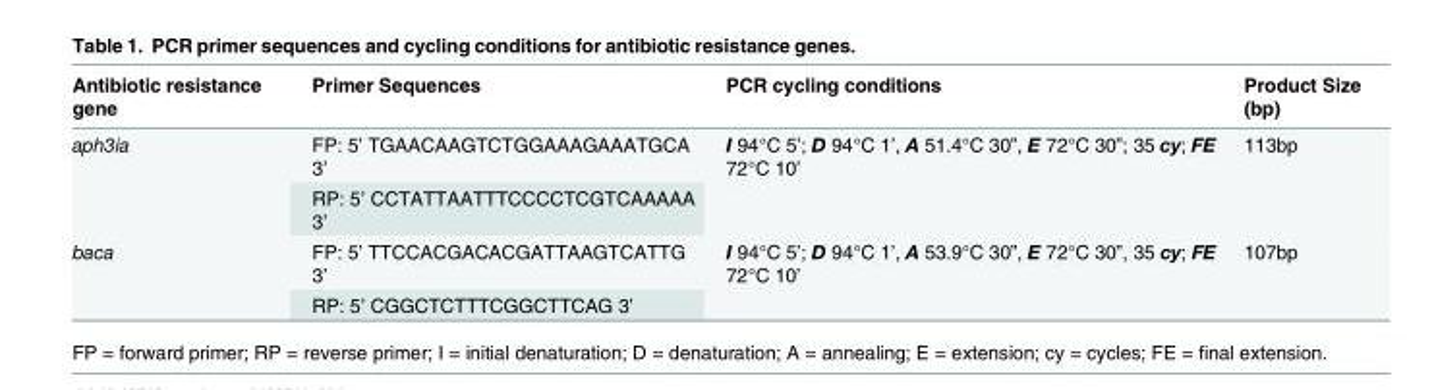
<table><thead><tr><td>Antibiotic resistance gene</td><td>Primer Sequences</td><td>PCR cycling conditions</td><td>Product Size (bp)</td></tr></thead><tbody><tr><td rowspan="2">aph3ia</td><td>FP: 5’ TGAACAAGTCTGGAAAGAAATGCA 3’</td><td rowspan="2">I 94°C 5’; D 94°C 1’, A 51.4°C 30”, E 72°C 30”; 35 cy; FE 72°C 10’</td><td rowspan="2">113bp</td></tr><tr><td>RP: 5’ CCTATTAATTTCCCCTCGTCAAAAA 3’</td></tr><tr><td rowspan="2">baca</td><td>FP: 5’ TTCCACGACACGATTAAGTCATTG 3’</td><td rowspan="2">I 94°C 5’; D 94°C 1’, A 53.9°C 30”, E 72°C 30”, 35 cy; FE 72°C 10’</td><td rowspan="2">107bp</td></tr><tr><td>RP: 5’ CGGCTCTTTCGGCTTCAG 3’</td></tr></tbody></table>